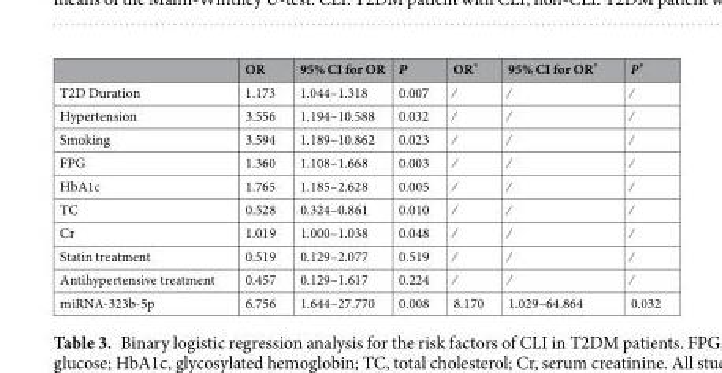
<table><thead><tr><td></td><td>OR</td><td>95% CI for OR</td><td>P</td><td>OR*</td><td>95% CI for OR*</td><td>P*</td></tr></thead><tbody><tr><td>T2D Duration</td><td>1.173</td><td>1.044–1.318</td><td>0.007</td><td>∕</td><td>∕</td><td>∕</td></tr><tr><td>Hypertension</td><td>3.556</td><td>1.194–10.588</td><td>0.032</td><td>∕</td><td>∕</td><td>∕</td></tr><tr><td>Smoking</td><td>3.594</td><td>1.189–10.862</td><td>0.023</td><td>∕</td><td>∕</td><td>∕</td></tr><tr><td>FPG</td><td>1.360</td><td>1.108–1.668</td><td>0.003</td><td>∕</td><td>∕</td><td>∕</td></tr><tr><td>HbA1c</td><td>1.765</td><td>1.185–2.628</td><td>0.005</td><td>∕</td><td>∕</td><td>∕</td></tr><tr><td>TC</td><td>0.528</td><td>0.324–0.861</td><td>0.010</td><td>∕</td><td>∕</td><td>∕</td></tr><tr><td>Cr</td><td>1.019</td><td>1.000–1.038</td><td>0.048</td><td>∕</td><td>∕</td><td>∕</td></tr><tr><td>Statin treatment</td><td>0.519</td><td>0.129–2.077</td><td>0.519</td><td>∕</td><td>∕</td><td>∕</td></tr><tr><td>Antihypertensive treatment</td><td>0.457</td><td>0.129–1.617</td><td>0.224</td><td>∕</td><td>∕</td><td>∕</td></tr><tr><td>miRNA-323b-5p</td><td>6.756</td><td>1.644–27.770</td><td>0.008</td><td>8.170</td><td>1.029–64.864</td><td>0.032</td></tr></tbody></table>